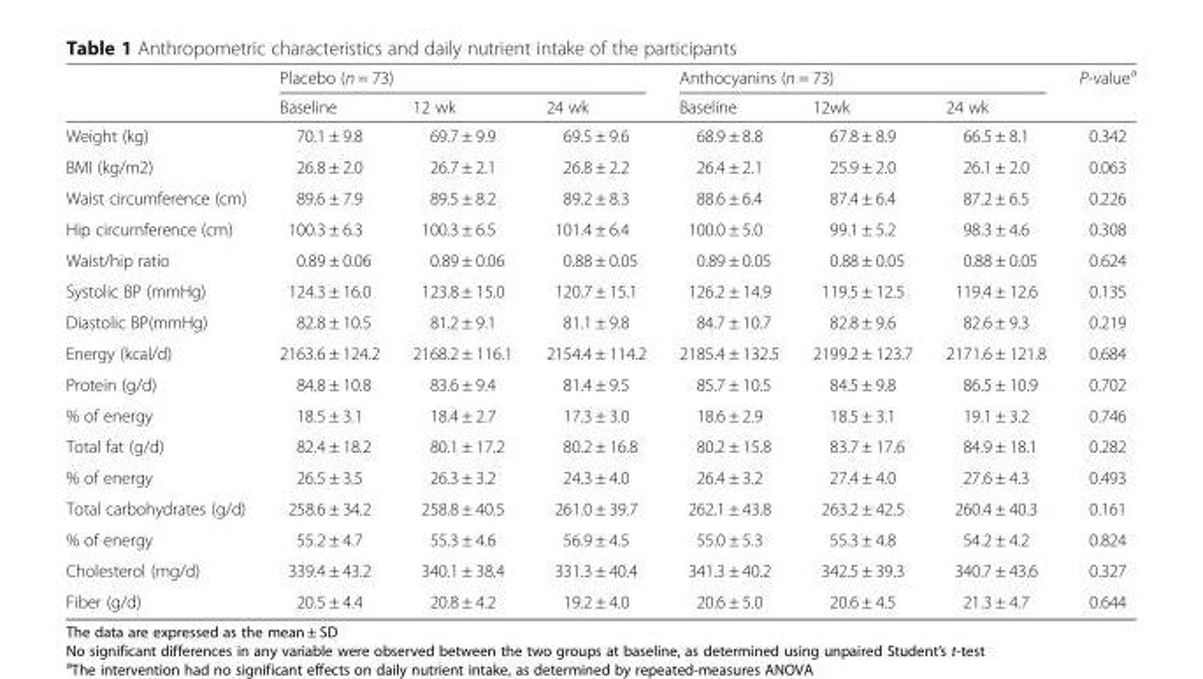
<table><thead><tr><td rowspan="2"></td><td colspan="3">Placebo (n = 73)</td><td colspan="3">Anthocyanins (n = 73)</td><td rowspan="2">P-value<sup>a</sup></td></tr><tr><td>Baseline</td><td>12 wk</td><td>24 wk</td><td>Baseline</td><td>12wk</td><td>24 wk</td></tr></thead><tbody><tr><td>Weight (kg)</td><td>70.1 ± 9.8</td><td>69.7 ± 9.9</td><td>69.5 ± 9.6</td><td>68.9 ± 8.8</td><td>67.8 ± 8.9</td><td>66.5 ± 8.1</td><td>0.342</td></tr><tr><td>BMI (kg/m2)</td><td>26.8 ± 2.0</td><td>26.7 ± 2.1</td><td>26.8 ± 2.2</td><td>26.4 ± 2.1</td><td>25.9 ± 2.0</td><td>26.1 ± 2.0</td><td>0.063</td></tr><tr><td>Waist circumference (cm)</td><td>89.6 ± 7.9</td><td>89.5 ± 8.2</td><td>89.2 ± 8.3</td><td>88.6 ± 6.4</td><td>87.4 ± 6.4</td><td>87.2 ± 6.5</td><td>0.226</td></tr><tr><td>Hip circumference (cm)</td><td>100.3 ± 6.3</td><td>100.3 ± 6.5</td><td>101.4 ± 6.4</td><td>100.0 ± 5.0</td><td>99.1 ± 5.2</td><td>98.3 ± 4.6</td><td>0.308</td></tr><tr><td>Waist/hip ratio</td><td>0.89 ± 0.06</td><td>0.89 ± 0.06</td><td>0.88 ± 0.05</td><td>0.89 ± 0.05</td><td>0.88 ± 0.05</td><td>0.88 ± 0.05</td><td>0.624</td></tr><tr><td>Systolic BP (mmHg)</td><td>124.3 ± 16.0</td><td>123.8 ± 15.0</td><td>120.7 ± 15.1</td><td>126.2 ± 14.9</td><td>119.5 ± 12.5</td><td>119.4 ± 12.6</td><td>0.135</td></tr><tr><td>Diastolic BP(mmHg)</td><td>82.8 ± 10.5</td><td>81.2 ± 9.1</td><td>81.1 ± 9.8</td><td>84.7 ± 10.7</td><td>82.8 ± 9.6</td><td>82.6 ± 9.3</td><td>0.219</td></tr><tr><td>Energy (kcal/d)</td><td>2163.6 ± 124.2</td><td>2168.2 ± 116.1</td><td>2154.4 ± 114.2</td><td>2185.4 ± 132.5</td><td>2199.2 ± 123.7</td><td>2171.6 ± 121.8</td><td>0.684</td></tr><tr><td>Protein (g/d)</td><td>84.8 ± 10.8</td><td>83.6 ± 9.4</td><td>81.4 ± 9.5</td><td>85.7 ± 10.5</td><td>84.5 ± 9.8</td><td>86.5 ± 10.9</td><td>0.702</td></tr><tr><td>% of energy</td><td>18.5 ± 3.1</td><td>18.4 ± 2.7</td><td>17.3 ± 3.0</td><td>18.6 ± 2.9</td><td>18.5 ± 3.1</td><td>19.1 ± 3.2</td><td>0.746</td></tr><tr><td>Total fat (g/d)</td><td>82.4 ± 18.2</td><td>80.1 ± 17.2</td><td>80.2 ± 16.8</td><td>80.2 ± 15.8</td><td>83.7 ± 17.6</td><td>84.9 ± 18.1</td><td>0.282</td></tr><tr><td>% of energy</td><td>26.5 ± 3.5</td><td>26.3 ± 3.2</td><td>24.3 ± 4.0</td><td>26.4 ± 3.2</td><td>27.4 ± 4.0</td><td>27.6 ± 4.3</td><td>0.493</td></tr><tr><td>Total carbohydrates (g/d)</td><td>258.6 ± 34.2</td><td>258.8 ± 40.5</td><td>261.0 ± 39.7</td><td>262.1 ± 43.8</td><td>263.2 ± 42.5</td><td>260.4 ± 40.3</td><td>0.161</td></tr><tr><td>% of energy</td><td>55.2 ± 4.7</td><td>55.3 ± 4.6</td><td>56.9 ± 4.5</td><td>55.0 ± 5.3</td><td>55.3 ± 4.8</td><td>54.2 ± 4.2</td><td>0.824</td></tr><tr><td>Cholesterol (mg/d)</td><td>339.4 ± 43.2</td><td>340.1 ± 38.4</td><td>331.3 ± 40.4</td><td>341.3 ± 40.2</td><td>342.5 ± 39.3</td><td>340.7 ± 43.6</td><td>0.327</td></tr><tr><td>Fiber (g/d)</td><td>20.5 ± 4.4</td><td>20.8 ± 4.2</td><td>19.2 ± 4.0</td><td>20.6 ± 5.0</td><td>20.6 ± 4.5</td><td>21.3 ± 4.7</td><td>0.644</td></tr></tbody></table>